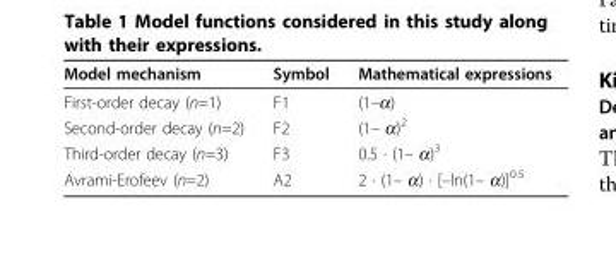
<table><thead><tr><td>Model mechanism</td><td>Symbol</td><td>Mathematical expressions</td></tr></thead><tbody><tr><td>First-order decay (n=1)</td><td>F1</td><td>(1–α)</td></tr><tr><td>Second-order decay (n=2)</td><td>F2</td><td>(1– α)<sup>2</sup></td></tr><tr><td>Third-order decay (n=3)</td><td>F3</td><td>0.5 · (1– α)<sup>3</sup></td></tr><tr><td>Avrami-Erofeev (n=2)</td><td>A2</td><td>2 · (1– α) · [–ln(1– α)]<sup>0.5</sup></td></tr></tbody></table>